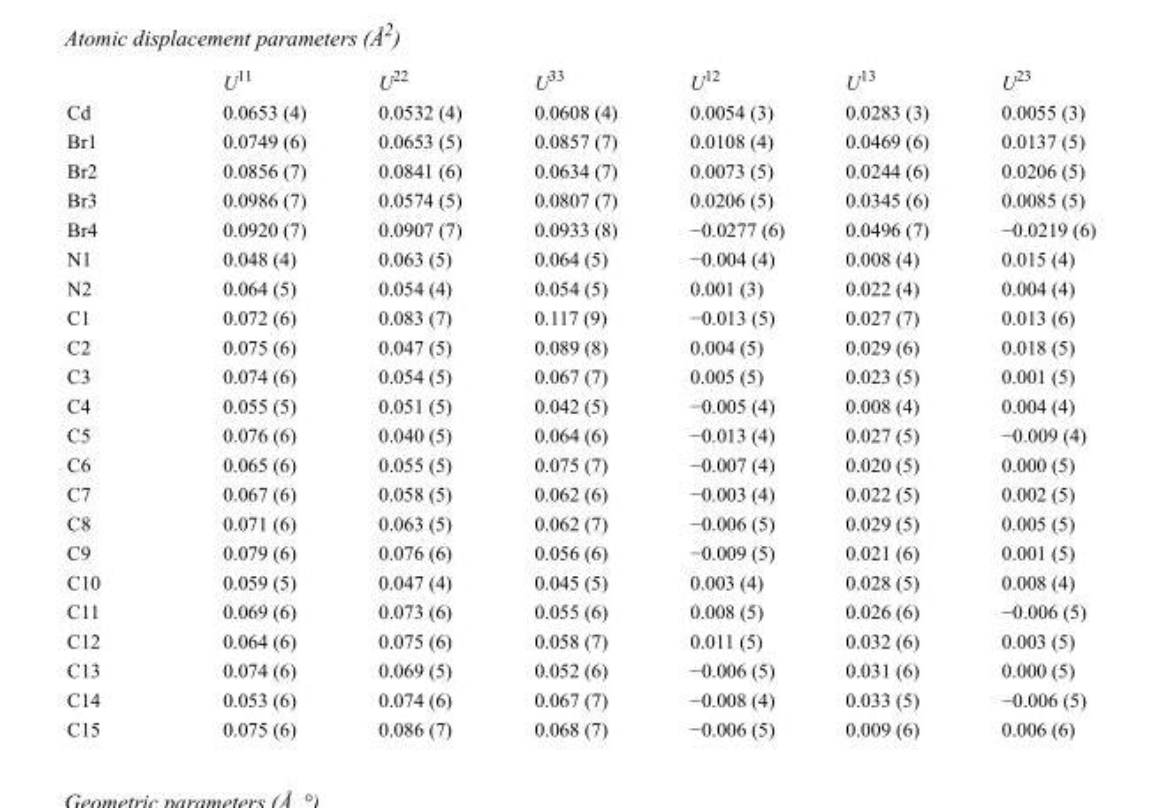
<table><thead><tr><td></td><td>U<sup>11</sup></td><td>U<sup>22</sup></td><td>U<sup>33</sup></td><td>U<sup>12</sup></td><td>U<sup>13</sup></td><td>U<sup>23</sup></td></tr></thead><tbody><tr><td>Cd</td><td>0.0653 (4)</td><td>0.0532 (4)</td><td>0.0608 (4)</td><td>0.0054 (3)</td><td>0.0283 (3)</td><td>0.0055 (3)</td></tr><tr><td>Br1</td><td>0.0749 (6)</td><td>0.0653 (5)</td><td>0.0857 (7)</td><td>0.0108 (4)</td><td>0.0469 (6)</td><td>0.0137 (5)</td></tr><tr><td>Br2</td><td>0.0856 (7)</td><td>0.0841 (6)</td><td>0.0634 (7)</td><td>0.0073 (5)</td><td>0.0244 (6)</td><td>0.0206 (5)</td></tr><tr><td>Br3</td><td>0.0986 (7)</td><td>0.0574 (5)</td><td>0.0807 (7)</td><td>0.0206 (5)</td><td>0.0345 (6)</td><td>0.0085 (5)</td></tr><tr><td>Br4</td><td>0.0920 (7)</td><td>0.0907 (7)</td><td>0.0933 (8)</td><td>−0.0277 (6)</td><td>0.0496 (7)</td><td>−0.0219 (6)</td></tr><tr><td>N1</td><td>0.048 (4)</td><td>0.063 (5)</td><td>0.064 (5)</td><td>−0.004 (4)</td><td>0.008 (4)</td><td>0.015 (4)</td></tr><tr><td>N2</td><td>0.064 (5)</td><td>0.054 (4)</td><td>0.054 (5)</td><td>0.001 (3)</td><td>0.022 (4)</td><td>0.004 (4)</td></tr><tr><td>C1</td><td>0.072 (6)</td><td>0.083 (7)</td><td>0.117 (9)</td><td>−0.013 (5)</td><td>0.027 (7)</td><td>0.013 (6)</td></tr><tr><td>C2</td><td>0.075 (6)</td><td>0.047 (5)</td><td>0.089 (8)</td><td>0.004 (5)</td><td>0.029 (6)</td><td>0.018 (5)</td></tr><tr><td>C3</td><td>0.074 (6)</td><td>0.054 (5)</td><td>0.067 (7)</td><td>0.005 (5)</td><td>0.023 (5)</td><td>0.001 (5)</td></tr><tr><td>C4</td><td>0.055 (5)</td><td>0.051 (5)</td><td>0.042 (5)</td><td>−0.005 (4)</td><td>0.008 (4)</td><td>0.004 (4)</td></tr><tr><td>C5</td><td>0.076 (6)</td><td>0.040 (5)</td><td>0.064 (6)</td><td>−0.013 (4)</td><td>0.027 (5)</td><td>−0.009 (4)</td></tr><tr><td>C6</td><td>0.065 (6)</td><td>0.055 (5)</td><td>0.075 (7)</td><td>−0.007 (4)</td><td>0.020 (5)</td><td>0.000 (5)</td></tr><tr><td>C7</td><td>0.067 (6)</td><td>0.058 (5)</td><td>0.062 (6)</td><td>−0.003 (4)</td><td>0.022 (5)</td><td>0.002 (5)</td></tr><tr><td>C8</td><td>0.071 (6)</td><td>0.063 (5)</td><td>0.062 (7)</td><td>−0.006 (5)</td><td>0.029 (5)</td><td>0.005 (5)</td></tr><tr><td>C9</td><td>0.079 (6)</td><td>0.076 (6)</td><td>0.056 (6)</td><td>−0.009 (5)</td><td>0.021 (6)</td><td>0.001 (5)</td></tr><tr><td>C10</td><td>0.059 (5)</td><td>0.047 (4)</td><td>0.045 (5)</td><td>0.003 (4)</td><td>0.028 (5)</td><td>0.008 (4)</td></tr><tr><td>C11</td><td>0.069 (6)</td><td>0.073 (6)</td><td>0.055 (6)</td><td>0.008 (5)</td><td>0.026 (6)</td><td>−0.006 (5)</td></tr><tr><td>C12</td><td>0.064 (6)</td><td>0.075 (6)</td><td>0.058 (7)</td><td>0.011 (5)</td><td>0.032 (6)</td><td>0.003 (5)</td></tr><tr><td>C13</td><td>0.074 (6)</td><td>0.069 (5)</td><td>0.052 (6)</td><td>−0.006 (5)</td><td>0.031 (6)</td><td>0.000 (5)</td></tr><tr><td>C14</td><td>0.053 (6)</td><td>0.074 (6)</td><td>0.067 (7)</td><td>−0.008 (4)</td><td>0.033 (5)</td><td>−0.006 (5)</td></tr><tr><td>C15</td><td>0.075 (6)</td><td>0.086 (7)</td><td>0.068 (7)</td><td>−0.006 (5)</td><td>0.009 (6)</td><td>0.006 (6)</td></tr></tbody></table>